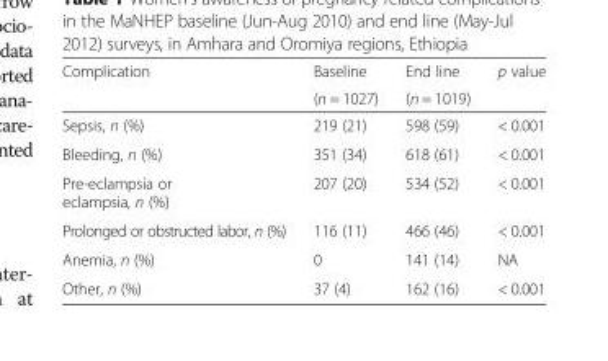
<table><thead><tr><td rowspan="2">Complication</td><td rowspan="2">Baseline (n = 1027)</td><td rowspan="2">End line (n = 1019)</td><td rowspan="2">p value</td></tr><tr></tr></thead><tbody><tr><td>Sepsis, n (%)</td><td>219 (21)</td><td>598 (59)</td><td>&lt; 0.001</td></tr><tr><td>Bleeding, n (%)</td><td>351 (34)</td><td>618 (61)</td><td>&lt; 0.001</td></tr><tr><td>Pre-eclampsia or eclampsia, n (%)</td><td>207 (20)</td><td>534 (52)</td><td>&lt; 0.001</td></tr><tr><td>Prolonged or obstructed labor, n (%)</td><td>116 (11)</td><td>466 (46)</td><td>&lt; 0.001</td></tr><tr><td>Anemia, n (%)</td><td>0</td><td>141 (14)</td><td>NA</td></tr><tr><td>Other, n (%)</td><td>37 (4)</td><td>162 (16)</td><td>&lt; 0.001</td></tr></tbody></table>